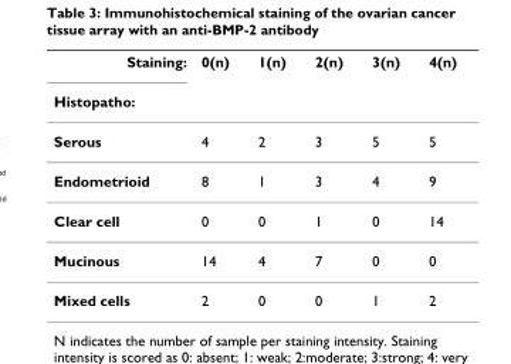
<table><thead><tr><td rowspan="2">Staining: Histopatho:</td><td rowspan="2">0(n)</td><td rowspan="2">1(n)</td><td rowspan="2">2(n)</td><td rowspan="2">3(n)</td><td rowspan="2">4(n)</td></tr><tr></tr></thead><tbody><tr><td>Serous</td><td>4</td><td>2</td><td>3</td><td>5</td><td>5</td></tr><tr><td>Endometrioid</td><td>8</td><td>1</td><td>3</td><td>4</td><td>9</td></tr><tr><td>Clear cell</td><td>0</td><td>0</td><td>1</td><td>0</td><td>14</td></tr><tr><td>Mucinous</td><td>14</td><td>4</td><td>7</td><td>0</td><td>0</td></tr><tr><td>Mixed cells</td><td>2</td><td>0</td><td>0</td><td>1</td><td>2</td></tr></tbody></table>